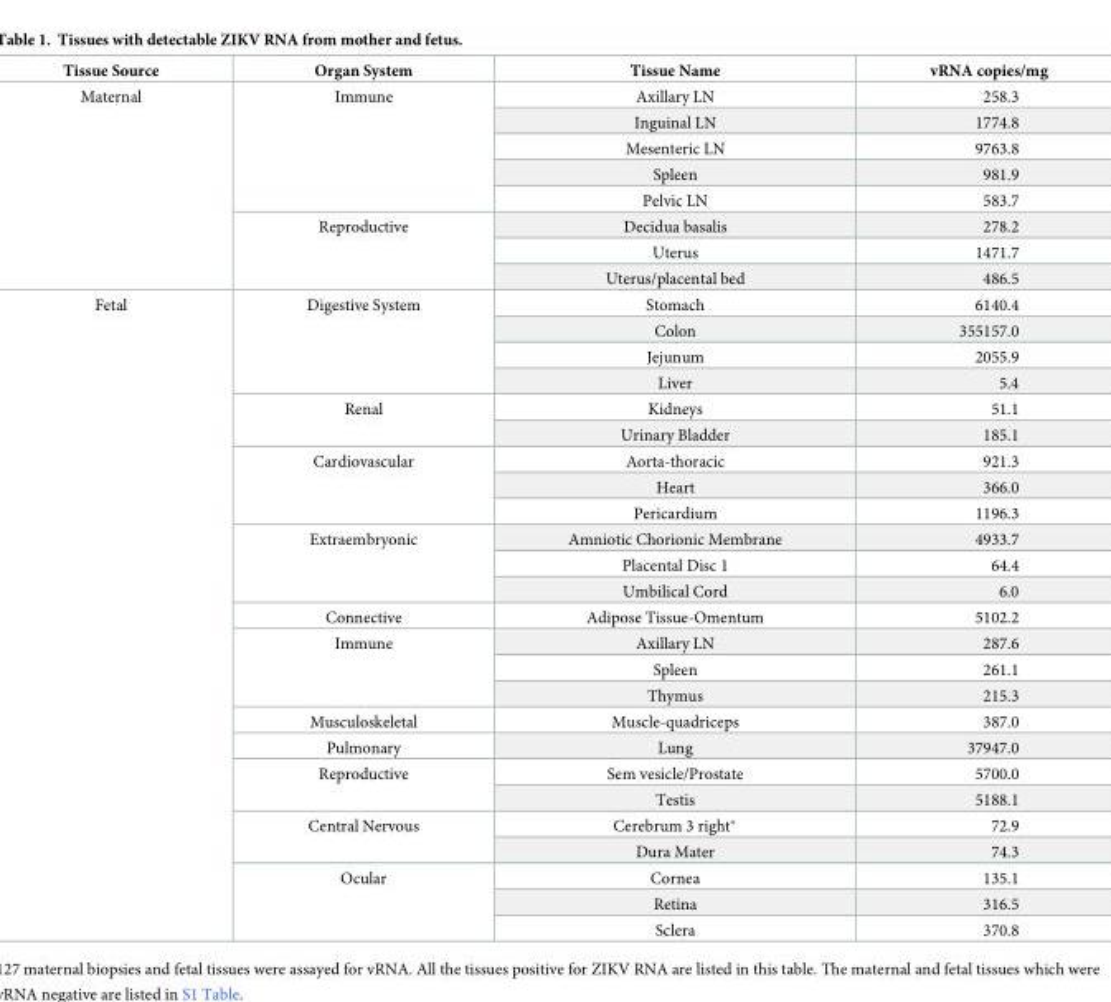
<table><thead><tr><td>Tissue Source</td><td>Organ System</td><td>Tissue Name</td><td>vRNA copies/mg</td></tr></thead><tbody><tr><td rowspan="8">Maternal</td><td rowspan="5">Immune</td><td>Axillary LN</td><td>258.3</td></tr><tr><td>Inguinal LN</td><td>1774.8</td></tr><tr><td>Mesenteric LN</td><td>9763.8</td></tr><tr><td>Spleen</td><td>981.9</td></tr><tr><td>Pelvic LN</td><td>583.7</td></tr><tr><td rowspan="3">Reproductive</td><td>Decidua basalis</td><td>278.2</td></tr><tr><td>Uterus</td><td>1471.7</td></tr><tr><td>Uterus/placental bed</td><td>486.5</td></tr><tr><td rowspan="25">Fetal</td><td rowspan="4">Digestive System</td><td>Stomach</td><td>6140.4</td></tr><tr><td>Colon</td><td>355157.0</td></tr><tr><td>Jejunum</td><td>2055.9</td></tr><tr><td>Liver</td><td>5.4</td></tr><tr><td rowspan="2">Renal</td><td>Kidneys</td><td>51.1</td></tr><tr><td>Urinary Bladder</td><td>185.1</td></tr><tr><td rowspan="3">Cardiovascular</td><td>Aorta-thoracic</td><td>921.3</td></tr><tr><td>Heart</td><td>366.0</td></tr><tr><td>Pericardium</td><td>1196.3</td></tr><tr><td rowspan="3">Extraembryonic</td><td>Amniotic Chorionic Membrane</td><td>4933.7</td></tr><tr><td>Placental Disc 1</td><td>64.4</td></tr><tr><td>Umbilical Cord</td><td>6.0</td></tr><tr><td>Connective</td><td>Adipose Tissue-Omentum</td><td>5102.2</td></tr><tr><td rowspan="3">Immune</td><td>Axillary LN</td><td>287.6</td></tr><tr><td>Spleen</td><td>261.1</td></tr><tr><td>Thymus</td><td>215.3</td></tr><tr><td>Musculoskeletal</td><td>Muscle-quadriceps</td><td>387.0</td></tr><tr><td>Pulmonary</td><td>Lung</td><td>37947.0</td></tr><tr><td rowspan="2">Reproductive</td><td>Sem vesicle/Prostate</td><td>5700.0</td></tr><tr><td>Testis</td><td>5188.1</td></tr><tr><td rowspan="2">Central Nervous</td><td>Cerebrum 3 right*</td><td>72.9</td></tr><tr><td>Dura Mater</td><td>74.3</td></tr><tr><td rowspan="3">Ocular</td><td>Cornea</td><td>135.1</td></tr><tr><td>Retina</td><td>316.5</td></tr><tr><td>Sclera</td><td>370.8</td></tr></tbody></table>